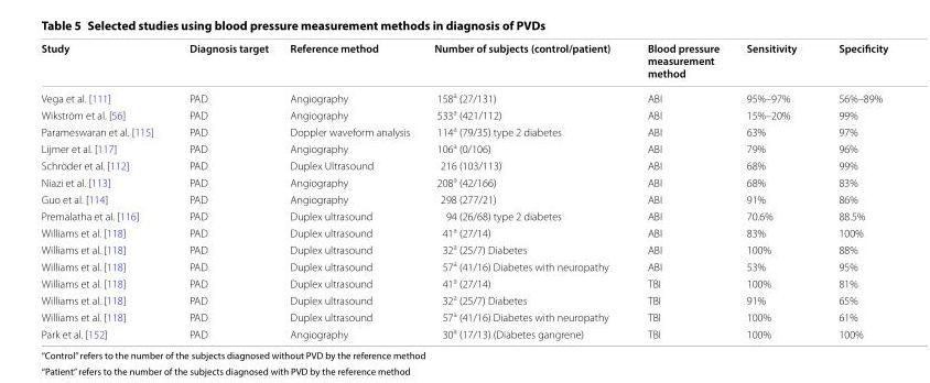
<table><thead><tr><td>Study</td><td>Diagnosis target</td><td>Reference method</td><td>Number of subjects (control/patient)</td><td>Blood pressure measurement method</td><td>Sensitivity</td><td>Specificity</td></tr></thead><tbody><tr><td>Vega et al. [111]</td><td>PAD</td><td>Angiography</td><td>158<sup>a</sup> (27/131)</td><td>ABI</td><td>95%–97%</td><td>56%–89%</td></tr><tr><td>Wikström et al. [56]</td><td>PAD</td><td>Angiography</td><td>533<sup>a</sup> (421/112)</td><td>ABI</td><td>15%–20%</td><td>99%</td></tr><tr><td>Parameswaran et al. [115]</td><td>PAD</td><td>Doppler waveform analysis</td><td>114<sup>a</sup> (79/35) type 2 diabetes</td><td>ABI</td><td>63%</td><td>97%</td></tr><tr><td>Lijmer et al. [117]</td><td>PAD</td><td>Angiography</td><td>106<sup>a</sup> (0/106)</td><td>ABI</td><td>79%</td><td>96%</td></tr><tr><td>Schröder et al. [112]</td><td>PAD</td><td>Duplex Ultrasound</td><td>216 (103/113)</td><td>ABI</td><td>68%</td><td>99%</td></tr><tr><td>Niazi et al. [113]</td><td>PAD</td><td>Angiography</td><td>208<sup>a</sup> (42/166)</td><td>ABI</td><td>68%</td><td>83%</td></tr><tr><td>Guo et al. [114]</td><td>PAD</td><td>Angiography</td><td>298 (277/21)</td><td>ABI</td><td>91%</td><td>86%</td></tr><tr><td>Premalatha et al. [116]</td><td>PAD</td><td>Duplex ultrasound</td><td>94 (26/68) type 2 diabetes</td><td>ABI</td><td>70.6%</td><td>88.5%</td></tr><tr><td>Williams et al. [118]</td><td>PAD</td><td>Duplex ultrasound</td><td>41<sup>a</sup> (27/14)</td><td>ABI</td><td>83%</td><td>100%</td></tr><tr><td>Williams et al. [118]</td><td>PAD</td><td>Duplex ultrasound</td><td>32<sup>a</sup> (25/7) Diabetes</td><td>ABI</td><td>100%</td><td>88%</td></tr><tr><td>Williams et al. [118]</td><td>PAD</td><td>Duplex ultrasound</td><td>57<sup>a</sup> (41/16) Diabetes with neuropathy</td><td>ABI</td><td>53%</td><td>95%</td></tr><tr><td>Williams et al. [118]</td><td>PAD</td><td>Duplex ultrasound</td><td>41<sup>a</sup> (27/14)</td><td>TBI</td><td>100%</td><td>81%</td></tr><tr><td>Williams et al. [118]</td><td>PAD</td><td>Duplex ultrasound</td><td>32<sup>a</sup> (25/7) Diabetes</td><td>TBI</td><td>91%</td><td>65%</td></tr><tr><td>Williams et al. [118]</td><td>PAD</td><td>Duplex ultrasound</td><td>57<sup>a</sup> (41/16) Diabetes with neuropathy</td><td>TBI</td><td>100%</td><td>61%</td></tr><tr><td>Park et al. [152]</td><td>PAD</td><td>Angiography</td><td>30<sup>a</sup> (17/13) (Diabetes gangrene)</td><td>TBI</td><td>100%</td><td>100%</td></tr></tbody></table>